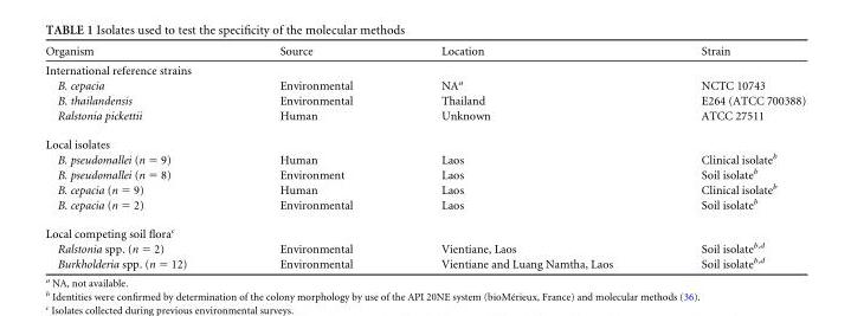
<table><thead><tr><td>Organism</td><td>Source</td><td>Location</td><td>Strain</td></tr></thead><tbody><tr><td colspan="4">International reference strains</td></tr><tr><td>B. cepacia</td><td>Environmental</td><td>NA<sup>a</sup></td><td>NCTC 10743</td></tr><tr><td>B. thailandensis</td><td>Environmental</td><td>Thailand</td><td>E264 (ATCC 700388)</td></tr><tr><td>Ralstonia pickettii</td><td>Human</td><td>Unknown</td><td>ATCC 27511</td></tr><tr><td colspan="4">Local isolates</td></tr><tr><td>B. pseudomallei (n = 9)</td><td>Human</td><td>Laos</td><td>Clinical isolate<sup>b</sup></td></tr><tr><td>B. pseudomallei (n = 8)</td><td>Environment</td><td>Laos</td><td>Soil isolate<sup>b</sup></td></tr><tr><td>B. cepacia (n = 9)</td><td>Human</td><td>Laos</td><td>Clinical isolate<sup>b</sup></td></tr><tr><td>B. cepacia (n = 2)</td><td>Environmental</td><td>Laos</td><td>Soil isolate<sup>b</sup></td></tr><tr><td colspan="4">Local competing soil flora<sup>c</sup></td></tr><tr><td>Ralstonia spp. (n = 2)</td><td>Environmental</td><td>Vientiane, Laos</td><td>Soil isolate<sup>b,d</sup></td></tr><tr><td>Burkholderia spp. (n = 12)</td><td>Environmental</td><td>Vientiane and Luang Namtha, Laos</td><td>Soil isolate<sup>b,d</sup></td></tr></tbody></table>